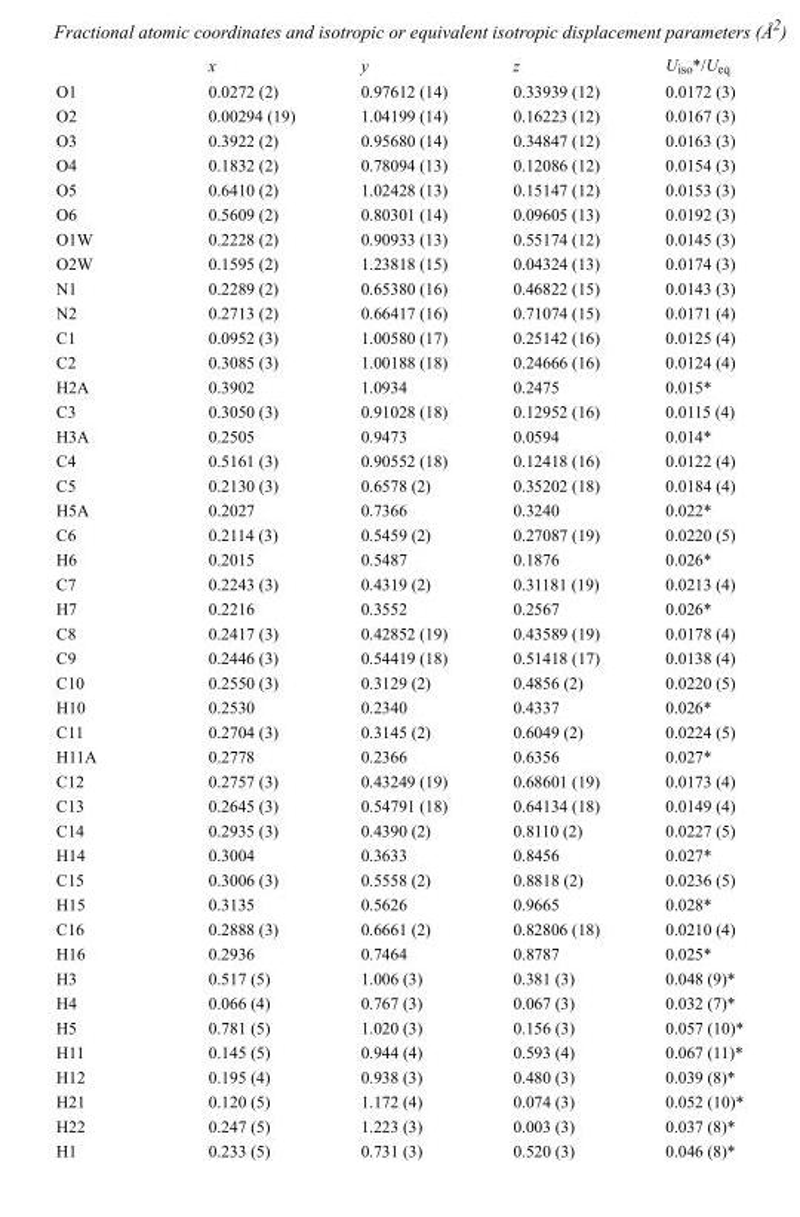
<table><thead><tr><td></td><td>x</td><td>y</td><td>z</td><td>U<sub>iso</sub>*/U<sub>eq</sub></td></tr></thead><tbody><tr><td>O1</td><td>0.0272 (2)</td><td>0.97612 (14)</td><td>0.33939 (12)</td><td>0.0172 (3)</td></tr><tr><td>O2</td><td>0.00294 (19)</td><td>1.04199 (14)</td><td>0.16223 (12)</td><td>0.0167 (3)</td></tr><tr><td>O3</td><td>0.3922 (2)</td><td>0.95680 (14)</td><td>0.34847 (12)</td><td>0.0163 (3)</td></tr><tr><td>O4</td><td>0.1832 (2)</td><td>0.78094 (13)</td><td>0.12086 (12)</td><td>0.0154 (3)</td></tr><tr><td>O5</td><td>0.6410 (2)</td><td>1.02428 (13)</td><td>0.15147 (12)</td><td>0.0153 (3)</td></tr><tr><td>O6</td><td>0.5609 (2)</td><td>0.80301 (14)</td><td>0.09605 (13)</td><td>0.0192 (3)</td></tr><tr><td>O1W</td><td>0.2228 (2)</td><td>0.90933 (13)</td><td>0.55174 (12)</td><td>0.0145 (3)</td></tr><tr><td>O2W</td><td>0.1595 (2)</td><td>1.23818 (15)</td><td>0.04324 (13)</td><td>0.0174 (3)</td></tr><tr><td>N1</td><td>0.2289 (2)</td><td>0.65380 (16)</td><td>0.46822 (15)</td><td>0.0143 (3)</td></tr><tr><td>N2</td><td>0.2713 (2)</td><td>0.66417 (16)</td><td>0.71074 (15)</td><td>0.0171 (4)</td></tr><tr><td>C1</td><td>0.0952 (3)</td><td>1.00580 (17)</td><td>0.25142 (16)</td><td>0.0125 (4)</td></tr><tr><td>C2</td><td>0.3085 (3)</td><td>1.00188 (18)</td><td>0.24666 (16)</td><td>0.0124 (4)</td></tr><tr><td>H2A</td><td>0.3902</td><td>1.0934</td><td>0.2475</td><td>0.015*</td></tr><tr><td>C3</td><td>0.3050 (3)</td><td>0.91028 (18)</td><td>0.12952 (16)</td><td>0.0115 (4)</td></tr><tr><td>H3A</td><td>0.2505</td><td>0.9473</td><td>0.0594</td><td>0.014*</td></tr><tr><td>C4</td><td>0.5161 (3)</td><td>0.90552 (18)</td><td>0.12418 (16)</td><td>0.0122 (4)</td></tr><tr><td>C5</td><td>0.2130 (3)</td><td>0.6578 (2)</td><td>0.35202 (18)</td><td>0.0184 (4)</td></tr><tr><td>H5A</td><td>0.2027</td><td>0.7366</td><td>0.3240</td><td>0.022*</td></tr><tr><td>C6</td><td>0.2114 (3)</td><td>0.5459 (2)</td><td>0.27087 (19)</td><td>0.0220 (5)</td></tr><tr><td>H6</td><td>0.2015</td><td>0.5487</td><td>0.1876</td><td>0.026*</td></tr><tr><td>C7</td><td>0.2243 (3)</td><td>0.4319 (2)</td><td>0.31181 (19)</td><td>0.0213 (4)</td></tr><tr><td>H7</td><td>0.2216</td><td>0.3552</td><td>0.2567</td><td>0.026*</td></tr><tr><td>C8</td><td>0.2417 (3)</td><td>0.42852 (19)</td><td>0.43589 (19)</td><td>0.0178 (4)</td></tr><tr><td>C9</td><td>0.2446 (3)</td><td>0.54419 (18)</td><td>0.51418 (17)</td><td>0.0138 (4)</td></tr><tr><td>C10</td><td>0.2550 (3)</td><td>0.3129 (2)</td><td>0.4856 (2)</td><td>0.0220 (5)</td></tr><tr><td>H10</td><td>0.2530</td><td>0.2340</td><td>0.4337</td><td>0.026*</td></tr><tr><td>C11</td><td>0.2704 (3)</td><td>0.3145 (2)</td><td>0.6049 (2)</td><td>0.0224 (5)</td></tr><tr><td>H11A</td><td>0.2778</td><td>0.2366</td><td>0.6356</td><td>0.027*</td></tr><tr><td>C12</td><td>0.2757 (3)</td><td>0.43249 (19)</td><td>0.68601 (19)</td><td>0.0173 (4)</td></tr><tr><td>C13</td><td>0.2645 (3)</td><td>0.54791 (18)</td><td>0.64134 (18)</td><td>0.0149 (4)</td></tr><tr><td>C14</td><td>0.2935 (3)</td><td>0.4390 (2)</td><td>0.8110 (2)</td><td>0.0227 (5)</td></tr><tr><td>H14</td><td>0.3004</td><td>0.3633</td><td>0.8456</td><td>0.027*</td></tr><tr><td>C15</td><td>0.3006 (3)</td><td>0.5558 (2)</td><td>0.8818 (2)</td><td>0.0236 (5)</td></tr><tr><td>H15</td><td>0.3135</td><td>0.5626</td><td>0.9665</td><td>0.028*</td></tr><tr><td>C16</td><td>0.2888 (3)</td><td>0.6661 (2)</td><td>0.82806 (18)</td><td>0.0210 (4)</td></tr><tr><td>H16</td><td>0.2936</td><td>0.7464</td><td>0.8787</td><td>0.025*</td></tr><tr><td>H3</td><td>0.517 (5)</td><td>1.006 (3)</td><td>0.381 (3)</td><td>0.048 (9)*</td></tr><tr><td>H4</td><td>0.066 (4)</td><td>0.767 (3)</td><td>0.067 (3)</td><td>0.032 (7)*</td></tr><tr><td>H5</td><td>0.781 (5)</td><td>1.020 (3)</td><td>0.156 (3)</td><td>0.057 (10)*</td></tr><tr><td>H11</td><td>0.145 (5)</td><td>0.944 (4)</td><td>0.593 (4)</td><td>0.067 (11)*</td></tr><tr><td>H12</td><td>0.195 (4)</td><td>0.938 (3)</td><td>0.480 (3)</td><td>0.039 (8)*</td></tr><tr><td>H21</td><td>0.120 (5)</td><td>1.172 (4)</td><td>0.074 (3)</td><td>0.052 (10)*</td></tr><tr><td>H22</td><td>0.247 (5)</td><td>1.223 (3)</td><td>0.003 (3)</td><td>0.037 (8)*</td></tr><tr><td>H1</td><td>0.233 (5)</td><td>0.731 (3)</td><td>0.520 (3)</td><td>0.046 (8)*</td></tr></tbody></table>